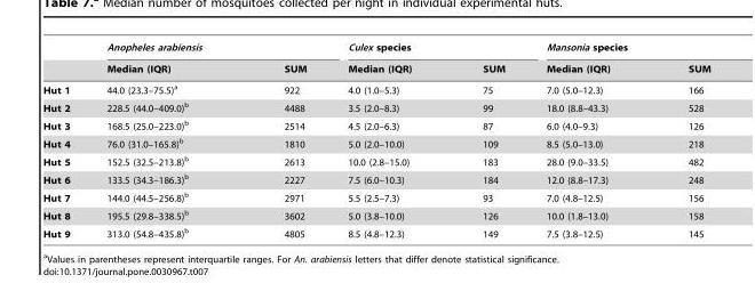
<table><thead><tr><td rowspan="2"></td><td colspan="2">Anopheles arabiensis</td><td colspan="2">Culex species</td><td colspan="2">Mansonia species</td></tr><tr><td>Median (IQR)</td><td>SUM</td><td>Median (IQR)</td><td>SUM</td><td>Median (IQR)</td><td>SUM</td></tr></thead><tbody><tr><td>Hut 1</td><td>44.0 (23.3–75.5)<sup>a</sup></td><td>922</td><td>4.0 (1.0–5.3)</td><td>75</td><td>7.0 (5.0–12.3)</td><td>166</td></tr><tr><td>Hut 2</td><td>228.5 (44.0–409.0)<sup>b</sup></td><td>4488</td><td>3.5 (2.0–8.3)</td><td>99</td><td>18.0 (8.8–43.3)</td><td>528</td></tr><tr><td>Hut 3</td><td>168.5 (25.0–223.0)<sup>b</sup></td><td>2514</td><td>4.5 (2.0–6.3)</td><td>87</td><td>6.0 (4.0–9.3)</td><td>126</td></tr><tr><td>Hut 4</td><td>76.0 (31.0–165.8)<sup>b</sup></td><td>1810</td><td>5.0 (2.0–10.0)</td><td>109</td><td>8.5 (5.0–13.0)</td><td>218</td></tr><tr><td>Hut 5</td><td>152.5 (32.5–213.8)<sup>b</sup></td><td>2613</td><td>10.0 (2.8–15.0)</td><td>183</td><td>28.0 (9.0–33.5)</td><td>482</td></tr><tr><td>Hut 6</td><td>133.5 (34.3–186.3)<sup>b</sup></td><td>2227</td><td>7.5 (6.0–10.3)</td><td>184</td><td>12.0 (8.8–17.3)</td><td>248</td></tr><tr><td>Hut 7</td><td>144.0 (44.5–256.8)<sup>b</sup></td><td>2971</td><td>5.5 (2.5–7.3)</td><td>93</td><td>7.0 (4.8–12.5)</td><td>156</td></tr><tr><td>Hut 8</td><td>195.5 (29.8–338.5)<sup>b</sup></td><td>3602</td><td>5.0 (3.8–10.0)</td><td>126</td><td>10.0 (1.8–13.0)</td><td>158</td></tr><tr><td>Hut 9</td><td>313.0 (54.8–435.8)<sup>b</sup></td><td>4805</td><td>8.5 (4.8–12.3)</td><td>149</td><td>7.5 (3.8–12.5)</td><td>145</td></tr></tbody></table>